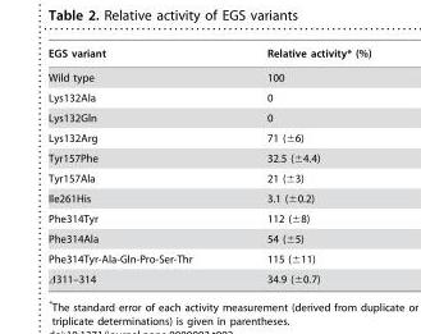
<table><thead><tr><td>EGS variant</td><td>Relative activity* (%)</td></tr></thead><tbody><tr><td>Wild type</td><td>100</td></tr><tr><td>Lys132Ala</td><td>0</td></tr><tr><td>Lys132Gln</td><td>0</td></tr><tr><td>Lys132Arg</td><td>71 (±6)</td></tr><tr><td>Tyr157Phe</td><td>32.5 (±4.4)</td></tr><tr><td>Tyr157Ala</td><td>21 (±3)</td></tr><tr><td>Ile261His</td><td>3.1 (±0.2)</td></tr><tr><td>Phe314Tyr</td><td>112 (±8)</td></tr><tr><td>Phe314Ala</td><td>54 (±5)</td></tr><tr><td>Phe314Tyr-Ala-Gln-Pro-Ser-Thr</td><td>115 (±11)</td></tr><tr><td>Δ311–314</td><td>34.9 (±0.7)</td></tr></tbody></table>